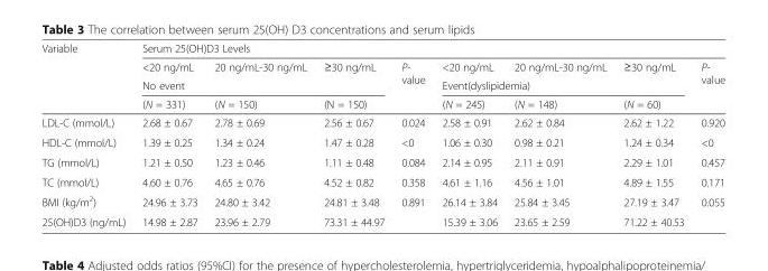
<table><thead><tr><td rowspan="4">Variable</td><td colspan="8">Serum 25(OH)D3 Levels</td></tr><tr><td>&lt;20 ng/mL</td><td>20 ng/mL-30 ng/mL</td><td>≥30 ng/mL</td><td rowspan="3">P- value</td><td>&lt;20 ng/mL</td><td>20 ng/mL-30 ng/mL</td><td>≥30 ng/mL</td><td rowspan="3">P- value</td></tr><tr><td colspan="3">No event</td><td colspan="3">Event(dyslipidemia)</td></tr><tr><td>(N = 331)</td><td>(N = 150)</td><td>(N = 150)</td><td>(N = 245)</td><td>(N = 148)</td><td>(N = 60)</td></tr></thead><tbody><tr><td>LDL-C (mmol/L)</td><td>2.68 ± 0.67</td><td>2.78 ± 0.69</td><td>2.56 ± 0.67</td><td>0.024</td><td>2.58 ± 0.91</td><td>2.62 ± 0.84</td><td>2.62 ± 1.22</td><td>0.920</td></tr><tr><td>HDL-C (mmol/L)</td><td>1.39 ± 0.25</td><td>1.34 ± 0.24</td><td>1.47 ± 0.28</td><td>&lt;0</td><td>1.06 ± 0.30</td><td>0.98 ± 0.21</td><td>1.24 ± 0.34</td><td>&lt;0</td></tr><tr><td>TG (mmol/L)</td><td>1.21 ± 0.50</td><td>1.23 ± 0.46</td><td>1.11 ± 0.48</td><td>0.084</td><td>2.14 ± 0.95</td><td>2.11 ± 0.91</td><td>2.29 ± 1.01</td><td>0.457</td></tr><tr><td>TC (mmol/L)</td><td>4.60 ± 0.76</td><td>4.65 ± 0.76</td><td>4.52 ± 0.82</td><td>0.358</td><td>4.61 ± 1.16</td><td>4.56 ± 1.01</td><td>4.89 ± 1.55</td><td>0.171</td></tr><tr><td>BMI (kg/m<sup>2</sup>)</td><td>24.96 ± 3.73</td><td>24.80 ± 3.42</td><td>24.81 ± 3.48</td><td>0.891</td><td>26.14 ± 3.84</td><td>25.84 ± 3.45</td><td>27.19 ± 3.47</td><td>0.055</td></tr><tr><td>25(OH)D3 (ng/mL)</td><td>14.98 ± 2.87</td><td>23.96 ± 2.79</td><td>73.31 ± 44.97</td><td></td><td>15.39 ± 3.06</td><td>23.65 ± 2.59</td><td>71.22 ± 40.53</td><td></td></tr></tbody></table>